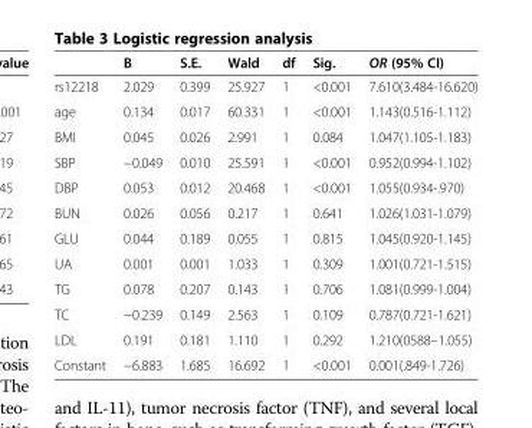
<table><thead><tr><td></td><td>B</td><td>S.E.</td><td>Wald</td><td>df</td><td>Sig.</td><td>OR (95% CI)</td></tr></thead><tbody><tr><td>rs12218</td><td>2.029</td><td>0.399</td><td>25.927</td><td>1</td><td>&lt;0.001</td><td>7.610(3.484-16.620)</td></tr><tr><td>age</td><td>0.134</td><td>0.017</td><td>60.331</td><td>1</td><td>&lt;0.001</td><td>1.143(0.516-1.112)</td></tr><tr><td>BMI</td><td>0.045</td><td>0.026</td><td>2.991</td><td>1</td><td>0.084</td><td>1.047(1.105-1.183)</td></tr><tr><td>SBP</td><td>−0.049</td><td>0.010</td><td>25.591</td><td>1</td><td>&lt;0.001</td><td>0.952(0.994-1.102)</td></tr><tr><td>DBP</td><td>0.053</td><td>0.012</td><td>20.468</td><td>1</td><td>&lt;0.001</td><td>1.055(0.934-.970)</td></tr><tr><td>BUN</td><td>0.026</td><td>0.056</td><td>0.217</td><td>1</td><td>0.641</td><td>1.026(1.031-1.079)</td></tr><tr><td>GLU</td><td>0.044</td><td>0.189</td><td>0.055</td><td>1</td><td>0.815</td><td>1.045(0.920-1.145)</td></tr><tr><td>UA</td><td>0.001</td><td>0.001</td><td>1.033</td><td>1</td><td>0.309</td><td>1.001(0.721-1.515)</td></tr><tr><td>TG</td><td>0.078</td><td>0.207</td><td>0.143</td><td>1</td><td>0.706</td><td>1.081(0.999-1.004)</td></tr><tr><td>TC</td><td>−0.239</td><td>0.149</td><td>2.563</td><td>1</td><td>0.109</td><td>0.787(0.721-1.621)</td></tr><tr><td>LDL</td><td>0.191</td><td>0.181</td><td>1.110</td><td>1</td><td>0.292</td><td>1.210(0588–1.055)</td></tr><tr><td>Constant</td><td>−6.883</td><td>1.685</td><td>16.692</td><td>1</td><td>&lt;0.001</td><td>0.001(.849-1.726)</td></tr></tbody></table>